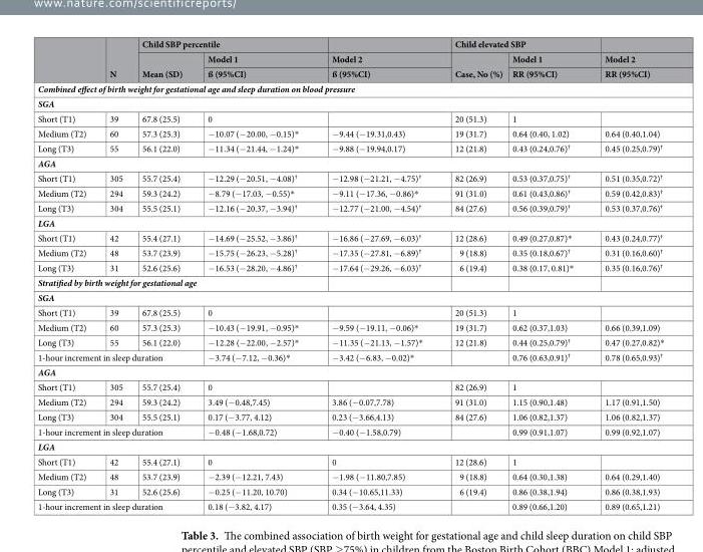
<table><thead><tr><td rowspan="3"></td><td rowspan="3">N</td><td colspan="2">Child SBP percentile</td><td rowspan="3">Model 2 ß (95%CI)</td><td colspan="2">Child elevated SBP</td><td rowspan="3">Model 2 RR (95%CI)</td></tr><tr><td rowspan="2">Mean (SD)</td><td rowspan="2">Model 1 ß (95%CI)</td><td rowspan="2">Case, No (%)</td><td rowspan="2">Model 1 RR (95%CI)</td></tr><tr></tr></thead><tbody><tr><td colspan="8">Combined effect of birth weight for gestational age and sleep duration on blood pressure</td></tr><tr><td colspan="8">SGA</td></tr><tr><td>Short (T1)</td><td>39</td><td>67.8 (25.5)</td><td>0</td><td></td><td>20 (51.3)</td><td>1</td><td></td></tr><tr><td>Medium (T2)</td><td>60</td><td>57.3 (25.3)</td><td>−10.07 (−20.00, −0.15)*</td><td>−9.44 (−19.31,0.43)</td><td>19 (31.7)</td><td>0.64 (0.40, 1.02)</td><td>0.64 (0.40,1.04)</td></tr><tr><td>Long (T3)</td><td>55</td><td>56.1 (22.0)</td><td>−11.34 (−21.44, −1.24)*</td><td>−9.88 (−19.94,0.17)</td><td>12 (21.8)</td><td>0.43 (0.24,0.76)<sup>†</sup></td><td>0.45 (0.25,0.79)<sup>†</sup></td></tr><tr><td colspan="8">AGA</td></tr><tr><td>Short (T1)</td><td>305</td><td>55.7 (25.4)</td><td>−12.29 (−20.51, −4.08)<sup>†</sup></td><td>−12.98 (−21.21, −4.75)<sup>†</sup></td><td>82 (26.9)</td><td>0.53 (0.37,0.75)<sup>†</sup></td><td>0.51 (0.35,0.72)<sup>†</sup></td></tr><tr><td>Medium (T2)</td><td>294</td><td>59.3 (24.2)</td><td>−8.79 (−17.03, −0.55)*</td><td>−9.11 (−17.36, −0.86)*</td><td>91 (31.0)</td><td>0.61 (0.43,0.86)<sup>†</sup></td><td>0.59 (0.42,0.83)<sup>†</sup></td></tr><tr><td>Long (T3)</td><td>304</td><td>55.5 (25.1)</td><td>−12.16 (−20.37, −3.94)<sup>†</sup></td><td>−12.77 (−21.00, −4.54)<sup>†</sup></td><td>84 (27.6)</td><td>0.56 (0.39,0.79)<sup>†</sup></td><td>0.53 (0.37,0.76)<sup>†</sup></td></tr><tr><td colspan="8">LGA</td></tr><tr><td>Short (T1)</td><td>42</td><td>55.4 (27.1)</td><td>−14.69 (−25.52, −3.86)<sup>†</sup></td><td>−16.86 (−27.69, −6.03)<sup>†</sup></td><td>12 (28.6)</td><td>0.49 (0.27,0.87)*</td><td>0.43 (0.24,0.77)<sup>†</sup></td></tr><tr><td>Medium (T2)</td><td>48</td><td>53.7 (23.9)</td><td>−15.75 (−26.23, −5.28)<sup>†</sup></td><td>−17.35 (−27.81, −6.89)<sup>†</sup></td><td>9 (18.8)</td><td>0.35 (0.18,0.67)<sup>†</sup></td><td>0.31 (0.16,0.60)<sup>†</sup></td></tr><tr><td>Long (T3)</td><td>31</td><td>52.6 (25.6)</td><td>−16.53 (−28.20, −4.86)<sup>†</sup></td><td>−17.64 (−29.26, −6.03)<sup>†</sup></td><td>6 (19.4)</td><td>0.38 (0.17, 0.81)*</td><td>0.35 (0.16,0.76)<sup>†</sup></td></tr><tr><td colspan="8">Stratified by birth weight for gestational age</td></tr><tr><td colspan="8">SGA</td></tr><tr><td>Short (T1)</td><td>39</td><td>67.8 (25.5)</td><td>0</td><td></td><td>20 (51.3)</td><td>1</td><td></td></tr><tr><td>Medium (T2)</td><td>60</td><td>57.3 (25.3)</td><td>−10.43 (−19.91, −0.95)*</td><td>−9.59 (−19.11, −0.06)*</td><td>19 (31.7)</td><td>0.62 (0.37,1.03)</td><td>0.66 (0.39,1.09)</td></tr><tr><td>Long (T3)</td><td>55</td><td>56.1 (22.0)</td><td>−12.28 (−22.00, −2.57)*</td><td>−11.35 (−21.13, −1.57)*</td><td>12 (21.8)</td><td>0.44 (0.25,0.79)<sup>†</sup></td><td>0.47 (0.27,0.82)*</td></tr><tr><td colspan="3">1-hour increment in sleep duration</td><td>−3.74 (−7.12, −0.36)*</td><td>−3.42 (−6.83, −0.02)*</td><td></td><td>0.76 (0.63,0.91)<sup>†</sup></td><td>0.78 (0.65,0.93)<sup>†</sup></td></tr><tr><td colspan="8">AGA</td></tr><tr><td>Short (T1)</td><td>305</td><td>55.7 (25.4)</td><td>0</td><td></td><td>82 (26.9)</td><td>1</td><td></td></tr><tr><td>Medium (T2)</td><td>294</td><td>59.3 (24.2)</td><td>3.49 (−0.48,7.45)</td><td>3.86 (−0.07,7.78)</td><td>91 (31.0)</td><td>1.15 (0.90,1.48)</td><td>1.17 (0.91,1.50)</td></tr><tr><td>Long (T3)</td><td>304</td><td>55.5 (25.1)</td><td>0.17 (−3.77, 4.12)</td><td>0.23 (−3.66,4.13)</td><td>84 (27.6)</td><td>1.06 (0.82,1.37)</td><td>1.06 (0.82,1.37)</td></tr><tr><td colspan="3">1-hour increment in sleep duration</td><td>−0.48 (−1.68,0.72)</td><td>−0.40 (−1.58,0.79)</td><td></td><td>0.99 (0.91,1.07)</td><td>0.99 (0.92,1.07)</td></tr><tr><td colspan="8">LGA</td></tr><tr><td>Short (T1)</td><td>42</td><td>55.4 (27.1)</td><td>0</td><td>0</td><td>12 (28.6)</td><td>1</td><td></td></tr><tr><td>Medium (T2)</td><td>48</td><td>53.7 (23.9)</td><td>−2.39 (−12.21, 7.43)</td><td>−1.98 (−11.80,7.85)</td><td>9 (18.8)</td><td>0.64 (0.30,1.38)</td><td>0.64 (0.29,1.40)</td></tr><tr><td>Long (T3)</td><td>31</td><td>52.6 (25.6)</td><td>−0.25 (−11.20, 10.70)</td><td>0.34 (−10.65,11.33)</td><td>6 (19.4)</td><td>0.86 (0.38,1.94)</td><td>0.86 (0.38,1.93)</td></tr><tr><td colspan="3">1-hour increment in sleep duration</td><td>0.18 (−3.82, 4.17)</td><td>0.35 (−3.64, 4.35)</td><td></td><td>0.89 (0.66,1.20)</td><td>0.89 (0.65,1.21)</td></tr></tbody></table>